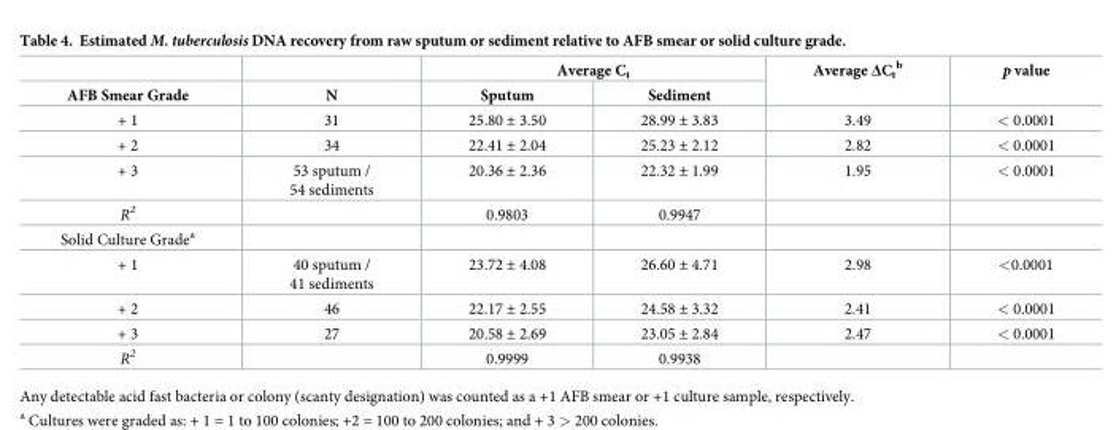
<table><thead><tr><td rowspan="2">AFB Smear Grade</td><td rowspan="2">N</td><td colspan="2">Average C<sub>t</sub></td><td rowspan="2">Average ΔC<sub>t</sub> <sup>b</sup></td><td rowspan="2">p value</td></tr><tr><td>Sputum</td><td>Sediment</td></tr></thead><tbody><tr><td>+ 1</td><td>31</td><td>25.80 ± 3.50</td><td>28.99 ± 3.83</td><td>3.49</td><td>&lt; 0.0001</td></tr><tr><td>+ 2</td><td>34</td><td>22.41 ± 2.04</td><td>25.23 ± 2.12</td><td>2.82</td><td>&lt; 0.0001</td></tr><tr><td>+ 3</td><td>53 sputum / 54 sediments</td><td>20.36 ± 2.36</td><td>22.32 ± 1.99</td><td>1.95</td><td>&lt; 0.0001</td></tr><tr><td>R<sup>2</sup></td><td></td><td>0.9803</td><td>0.9947</td><td></td><td></td></tr><tr><td colspan="6">Solid Culture Grade<sup>a</sup></td></tr><tr><td>+ 1</td><td>40 sputum / 41 sediments</td><td>23.72 ± 4.08</td><td>26.60 ± 4.71</td><td>2.98</td><td>&lt;0.0001</td></tr><tr><td>+ 2</td><td>46</td><td>22.17 ± 2.55</td><td>24.58 ± 3.32</td><td>2.41</td><td>&lt; 0.0001</td></tr><tr><td>+ 3</td><td>27</td><td>20.58 ± 2.69</td><td>23.05 ± 2.84</td><td>2.47</td><td>&lt; 0.0001</td></tr><tr><td>R<sup>2</sup></td><td></td><td>0.9999</td><td>0.9938</td><td></td><td></td></tr></tbody></table>